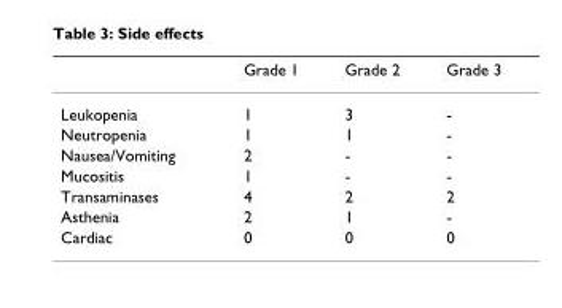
<table><thead><tr><td></td><td>Grade 1</td><td>Grade 2</td><td>Grade 3</td></tr></thead><tbody><tr><td>Leukopenia</td><td>1</td><td>3</td><td>-</td></tr><tr><td>Neutropenia</td><td>1</td><td>1</td><td>-</td></tr><tr><td>Nausea/Vomiting</td><td>2</td><td>-</td><td>-</td></tr><tr><td>Mucositis</td><td>1</td><td>-</td><td>-</td></tr><tr><td>Transaminases</td><td>4</td><td>2</td><td>2</td></tr><tr><td>Asthenia</td><td>2</td><td>1</td><td>-</td></tr><tr><td>Cardiac</td><td>0</td><td>0</td><td>0</td></tr></tbody></table>